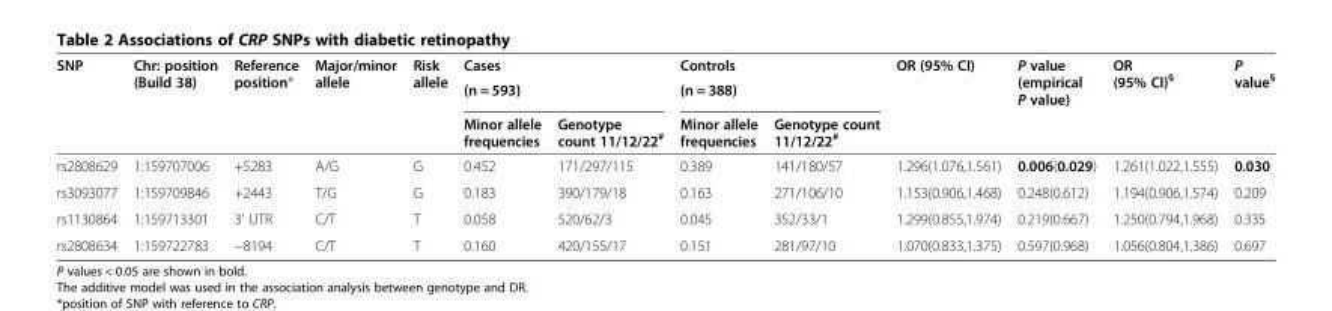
<table><thead><tr><td rowspan="3">SNP</td><td rowspan="3">Chr: position (Build 38)</td><td rowspan="3">Reference position*</td><td rowspan="3">Major/minor allele</td><td rowspan="3">Risk allele</td><td rowspan="2" colspan="2">Cases (n = 593)</td><td rowspan="2" colspan="2">Controls (n = 388)</td><td rowspan="3">OR (95% CI)</td><td rowspan="3">P value (empirical P value)</td><td rowspan="3">OR (95% CI)<sup>§</sup></td><td rowspan="3">P value<sup>§</sup></td></tr><tr></tr><tr><td>Minor allele frequencies</td><td>Genotype count 11/12/22<sup>#</sup></td><td>Minor allele frequencies</td><td>Genotype count 11/12/22<sup>#</sup></td></tr></thead><tbody><tr><td>rs2808629</td><td>1:159707006</td><td>+5283</td><td>A/G</td><td>G</td><td>0.452</td><td>171/297/115</td><td>0.389</td><td>141/180/57</td><td>1.296(1.076,1.561)</td><td>0.006(0.029)</td><td>1.261(1.022,1.555)</td><td>0.030</td></tr><tr><td>rs3093077</td><td>1:159709846</td><td>+2443</td><td>T/G</td><td>G</td><td>0.183</td><td>390/179/18</td><td>0.163</td><td>271/106/10</td><td>1.153(0.906,1.468)</td><td>0.248(0.612)</td><td>1.194(0.906,1.574)</td><td>0.209</td></tr><tr><td>rs1130864</td><td>1:159713301</td><td>3’ UTR</td><td>C/T</td><td>T</td><td>0.058</td><td>520/62/3</td><td>0.045</td><td>352/33/1</td><td>1.299(0.855,1.974)</td><td>0.219(0.667)</td><td>1.250(0.794,1.968)</td><td>0.335</td></tr><tr><td>rs2808634</td><td>1:159722783</td><td>−8194</td><td>C/T</td><td>T</td><td>0.160</td><td>420/155/17</td><td>0.151</td><td>281/97/10</td><td>1.070(0.833,1.375)</td><td>0.597(0.968)</td><td>1.056(0.804,1.386)</td><td>0.697</td></tr></tbody></table>